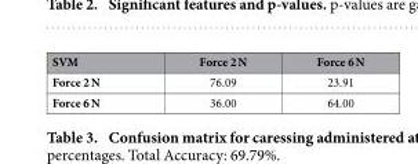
<table><thead><tr><td>SVM</td><td>Force 2 N</td><td>Force 6 N</td></tr></thead><tbody><tr><td>Force 2 N</td><td>76.09</td><td>23.91</td></tr><tr><td>Force 6 N</td><td>36.00</td><td>64.00</td></tr></tbody></table>